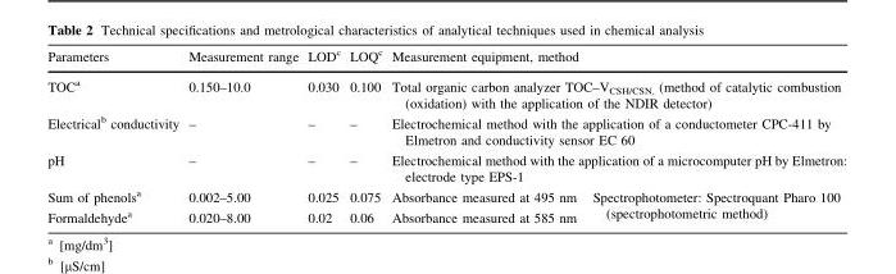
<table><thead><tr><td>Parameters</td><td>Measurement range</td><td>LOD<sup>c</sup></td><td>LOQ<sup>c</sup></td><td colspan="2">Measurement equipment, method</td></tr></thead><tbody><tr><td>TOC<sup>a</sup></td><td>0.150–10.0</td><td>0.030</td><td>0.100</td><td colspan="2">Total organic carbon analyzer TOC–V<sub>CSH/CSN,</sub> (method of catalytic combustion (oxidation) with the application of the NDIR detector)</td></tr><tr><td>Electrical<sup>b</sup> conductivity</td><td>–</td><td>–</td><td>–</td><td colspan="2">Electrochemical method with the application of a conductometer CPC-411 by Elmetron and conductivity sensor EC 60</td></tr><tr><td>pH</td><td>–</td><td>–</td><td>–</td><td colspan="2">Electrochemical method with the application of a microcomputer pH by Elmetron: electrode type EPS-1</td></tr><tr><td>Sum of phenols<sup>a</sup></td><td>0.002–5.00</td><td>0.025</td><td>0.075</td><td>Absorbance measured at 495 nm</td><td rowspan="2">Spectrophotometer: Spectroquant Pharo 100 (spectrophotometric method)</td></tr><tr><td>Formaldehyde<sup>a</sup></td><td>0.020–8.00</td><td>0.02</td><td>0.06</td><td>Absorbance measured at 585 nm</td></tr></tbody></table>